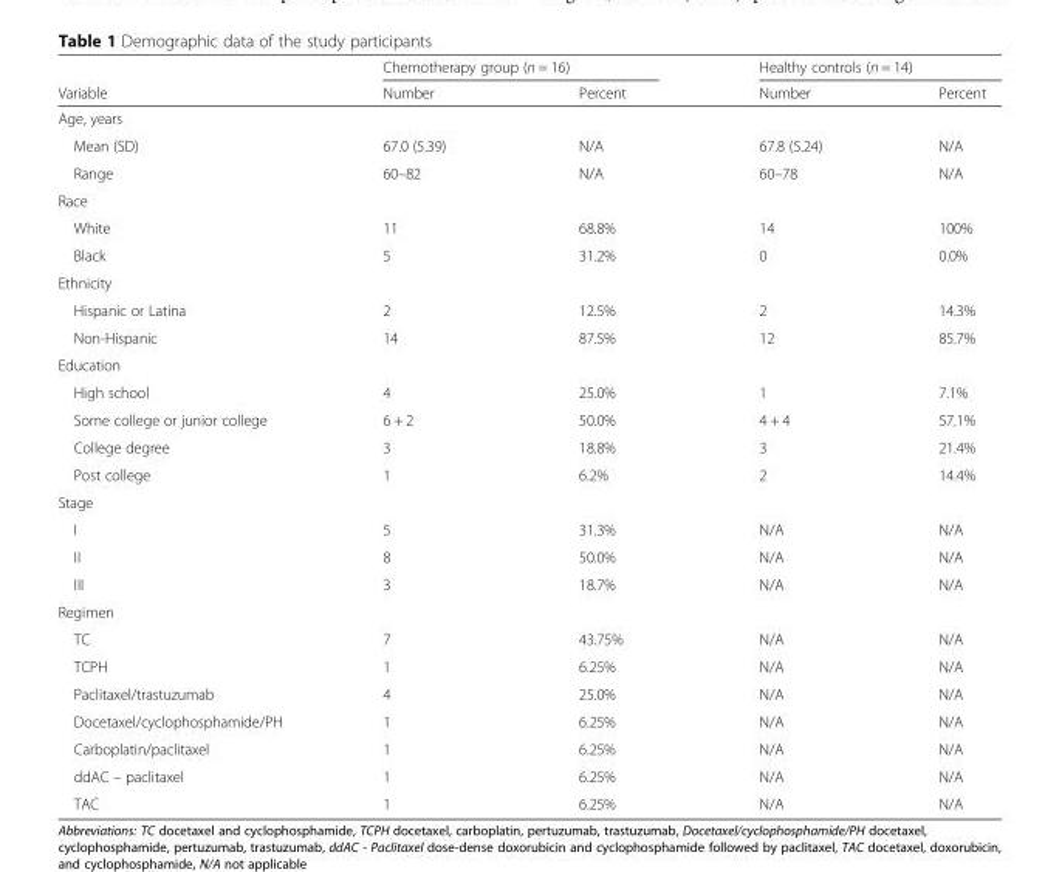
<table><thead><tr><td rowspan="2">Variable</td><td colspan="2">Chemotherapy group (n = 16)</td><td colspan="2">Healthy controls (n = 14)</td></tr><tr><td>Number</td><td>Percent</td><td>Number</td><td>Percent</td></tr></thead><tbody><tr><td colspan="5">Age, years</td></tr><tr><td>Mean (SD)</td><td>67.0 (5.39)</td><td>N/A</td><td>67.8 (5.24)</td><td>N/A</td></tr><tr><td>Range</td><td>60–82</td><td>N/A</td><td>60–78</td><td>N/A</td></tr><tr><td colspan="5">Race</td></tr><tr><td>White</td><td>11</td><td>68.8%</td><td>14</td><td>100%</td></tr><tr><td>Black</td><td>5</td><td>31.2%</td><td>0</td><td>0.0%</td></tr><tr><td colspan="5">Ethnicity</td></tr><tr><td>Hispanic or Latina</td><td>2</td><td>12.5%</td><td>2</td><td>14.3%</td></tr><tr><td>Non-Hispanic</td><td>14</td><td>87.5%</td><td>12</td><td>85.7%</td></tr><tr><td colspan="5">Education</td></tr><tr><td>High school</td><td>4</td><td>25.0%</td><td>1</td><td>7.1%</td></tr><tr><td>Some college or junior college</td><td>6 + 2</td><td>50.0%</td><td>4 + 4</td><td>57.1%</td></tr><tr><td>College degree</td><td>3</td><td>18.8%</td><td>3</td><td>21.4%</td></tr><tr><td>Post college</td><td>1</td><td>6.2%</td><td>2</td><td>14.4%</td></tr><tr><td colspan="5">Stage</td></tr><tr><td>I</td><td>5</td><td>31.3%</td><td>N/A</td><td>N/A</td></tr><tr><td>II</td><td>8</td><td>50.0%</td><td>N/A</td><td>N/A</td></tr><tr><td>III</td><td>3</td><td>18.7%</td><td>N/A</td><td>N/A</td></tr><tr><td colspan="5">Regimen</td></tr><tr><td>TC</td><td>7</td><td>43.75%</td><td>N/A</td><td>N/A</td></tr><tr><td>TCPH</td><td>1</td><td>6.25%</td><td>N/A</td><td>N/A</td></tr><tr><td>Paclitaxel/trastuzumab</td><td>4</td><td>25.0%</td><td>N/A</td><td>N/A</td></tr><tr><td>Docetaxel/cyclophosphamide/PH</td><td>1</td><td>6.25%</td><td>N/A</td><td>N/A</td></tr><tr><td>Carboplatin/paclitaxel</td><td>1</td><td>6.25%</td><td>N/A</td><td>N/A</td></tr><tr><td>ddAC – paclitaxel</td><td>1</td><td>6.25%</td><td>N/A</td><td>N/A</td></tr><tr><td>TAC</td><td>1</td><td>6.25%</td><td>N/A</td><td>N/A</td></tr></tbody></table>